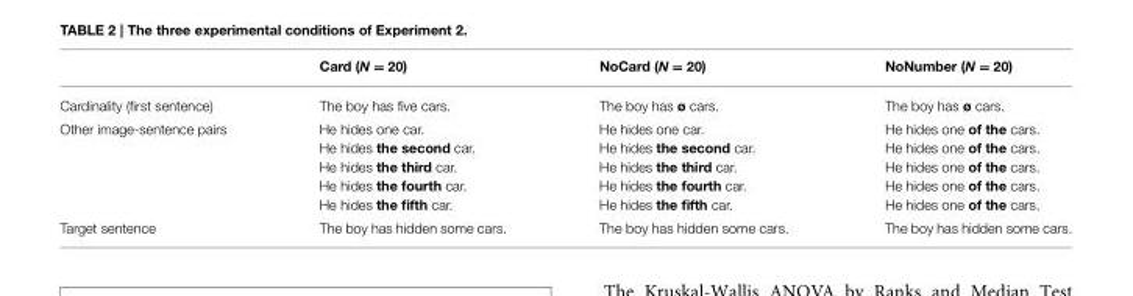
<table><thead><tr><td></td><td>Card (N = 20)</td><td>NoCard (N = 20)</td><td>NoNumber (N = 20)</td></tr></thead><tbody><tr><td>Cardinality (first sentence)</td><td>The boy has five cars.</td><td>The boy has ø cars.</td><td>The boy has ø cars.</td></tr><tr><td>Other image-sentence pairs</td><td>He hides one car. He hides the second car. He hides the third car. He hides the fourth car. He hides the fifth car.</td><td>He hides one car. He hides the second car. He hides the third car. He hides the fourth car. He hides the fifth car.</td><td>He hides one of the cars. He hides one of the cars. He hides one of the cars. He hides one of the cars. He hides one of the cars.</td></tr><tr><td>Target sentence</td><td>The boy has hidden some cars.</td><td>The boy has hidden some cars.</td><td>The boy has hidden some cars.</td></tr></tbody></table>